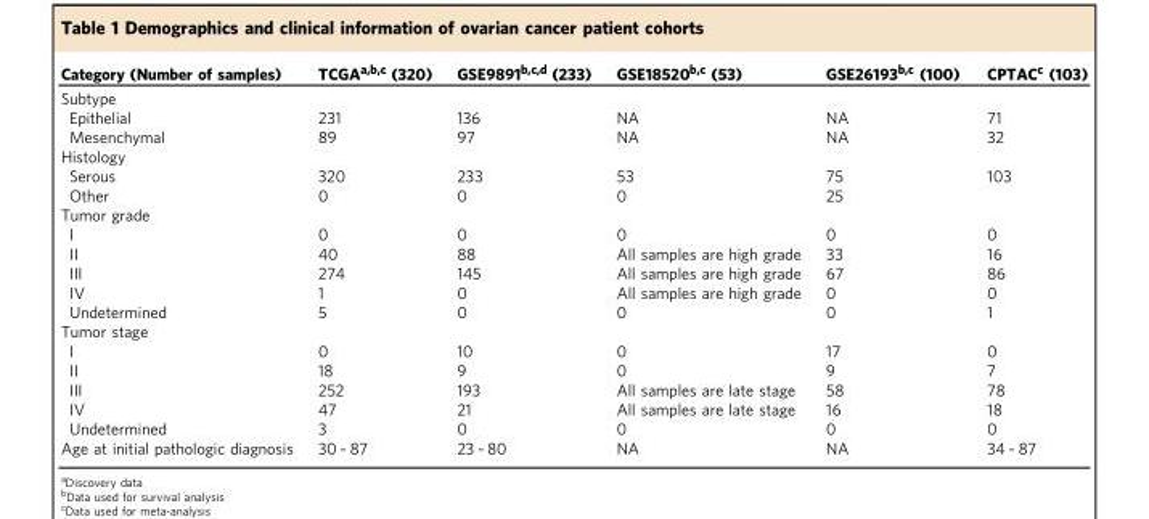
<table><thead><tr><td>Category (Number of samples)</td><td>TCGA<sup>a,b,c</sup> (320)</td><td>GSE9891<sup>b,c,d</sup> (233)</td><td>GSE18520<sup>b,c</sup> (53)</td><td>GSE26193<sup>b,c</sup> (100)</td><td>CPTAC<sup>c</sup> (103)</td></tr></thead><tbody><tr><td colspan="6">Subtype</td></tr><tr><td>Epithelial</td><td>231</td><td>136</td><td>NA</td><td>NA</td><td>71</td></tr><tr><td>Mesenchymal</td><td>89</td><td>97</td><td>NA</td><td>NA</td><td>32</td></tr><tr><td colspan="6">Histology</td></tr><tr><td>Serous</td><td>320</td><td>233</td><td>53</td><td>75</td><td>103</td></tr><tr><td>Other</td><td>0</td><td>0</td><td>0</td><td>25</td><td></td></tr><tr><td colspan="6">Tumor grade</td></tr><tr><td>I</td><td>0</td><td>0</td><td>0</td><td>0</td><td>0</td></tr><tr><td>II</td><td>40</td><td>88</td><td>All samples are high grade</td><td>33</td><td>16</td></tr><tr><td>III</td><td>274</td><td>145</td><td>All samples are high grade</td><td>67</td><td>86</td></tr><tr><td>IV</td><td>1</td><td>0</td><td>All samples are high grade</td><td>0</td><td>0</td></tr><tr><td>Undetermined</td><td>5</td><td>0</td><td>0</td><td>0</td><td>1</td></tr><tr><td colspan="6">Tumor stage</td></tr><tr><td>I</td><td>0</td><td>10</td><td>0</td><td>17</td><td>0</td></tr><tr><td>II</td><td>18</td><td>9</td><td>0</td><td>9</td><td>7</td></tr><tr><td>III</td><td>252</td><td>193</td><td>All samples are late stage</td><td>58</td><td>78</td></tr><tr><td>IV</td><td>47</td><td>21</td><td>All samples are late stage</td><td>16</td><td>18</td></tr><tr><td>Undetermined</td><td>3</td><td>0</td><td>0</td><td>0</td><td>0</td></tr><tr><td>Age at initial pathologic diagnosis</td><td>30 ~ 87</td><td>23 ~ 80</td><td>NA</td><td>NA</td><td>34 ~ 87</td></tr></tbody></table>